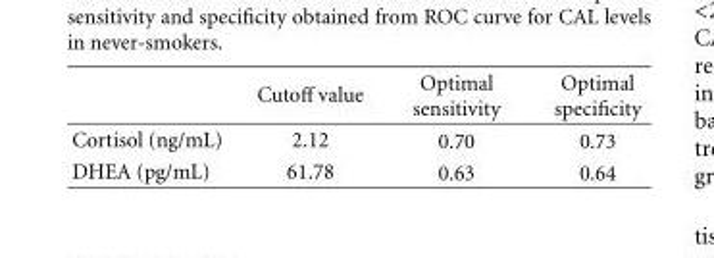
<table><thead><tr><td></td><td>Cutoff value</td><td>Optimal sensitivity</td><td>Optimal specificity</td></tr></thead><tbody><tr><td>Cortisol (ng/mL)</td><td>2.12</td><td>0.70</td><td>0.73</td></tr><tr><td>DHEA (pg/mL)</td><td>61.78</td><td>0.63</td><td>0.64</td></tr></tbody></table>